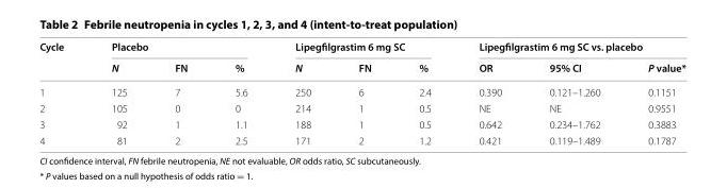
<table><thead><tr><td rowspan="2">Cycle</td><td colspan="3">Placebo</td><td colspan="3">Lipegfilgrastim 6 mg SC</td><td colspan="3">Lipegfilgrastim 6 mg SC vs. placebo</td></tr><tr><td>N</td><td>FN</td><td>%</td><td>N</td><td>FN</td><td>%</td><td>OR</td><td>95% CI</td><td>P value*</td></tr></thead><tbody><tr><td>1</td><td>125</td><td>7</td><td>5.6</td><td>250</td><td>6</td><td>2.4</td><td>0.390</td><td>0.121–1.260</td><td>0.1151</td></tr><tr><td>2</td><td>105</td><td>0</td><td>0</td><td>214</td><td>1</td><td>0.5</td><td>NE</td><td>NE</td><td>0.9551</td></tr><tr><td>3</td><td>92</td><td>1</td><td>1.1</td><td>188</td><td>1</td><td>0.5</td><td>0.642</td><td>0.234–1.762</td><td>0.3883</td></tr><tr><td>4</td><td>81</td><td>2</td><td>2.5</td><td>171</td><td>2</td><td>1.2</td><td>0.421</td><td>0.119–1.489</td><td>0.1787</td></tr></tbody></table>